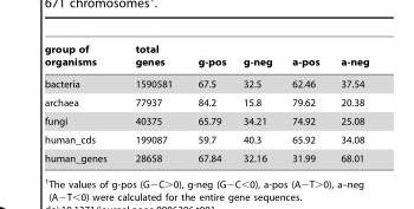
<table><thead><tr><td>group of organisms</td><td>total genes</td><td>g-pos</td><td>g-neg</td><td>a-pos</td><td>a-neg</td></tr></thead><tbody><tr><td>bacteria</td><td>1590581</td><td>67.5</td><td>32.5</td><td>62.46</td><td>37.54</td></tr><tr><td>archaea</td><td>77937</td><td>84.2</td><td>15.8</td><td>79.62</td><td>20.38</td></tr><tr><td>fungi</td><td>40375</td><td>65.79</td><td>34.21</td><td>74.92</td><td>25.08</td></tr><tr><td>human_cds</td><td>199087</td><td>59.7</td><td>40.3</td><td>65.92</td><td>34.08</td></tr><tr><td>human_genes</td><td>28658</td><td>67.84</td><td>32.16</td><td>31.99</td><td>68.01</td></tr></tbody></table>